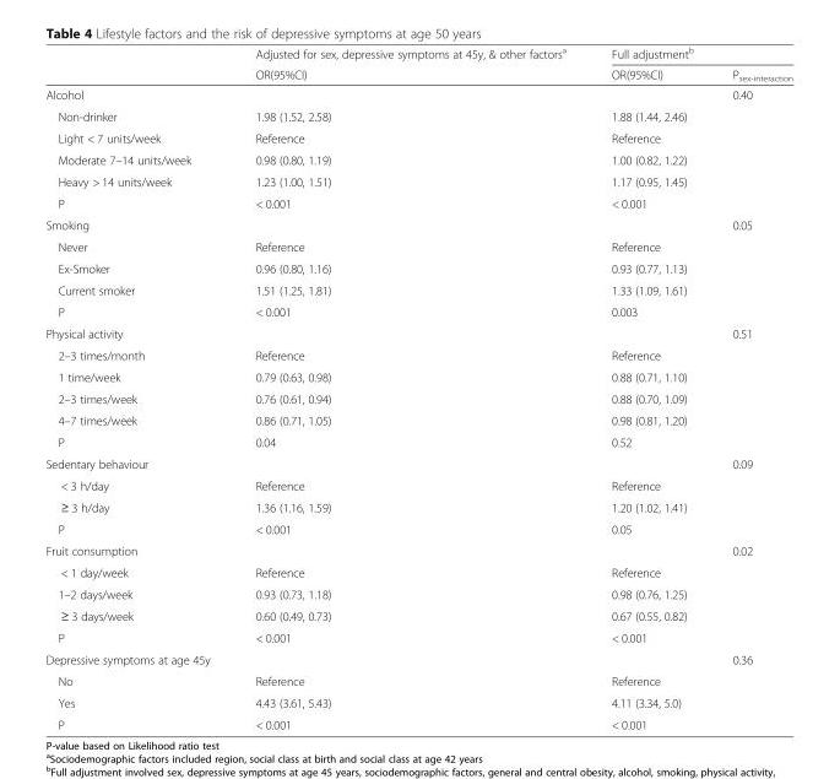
<table><thead><tr><td rowspan="2"></td><td rowspan="2">Adjusted for sex, depressive symptoms at 45y, &amp; other factors<sup>a</sup> OR(95%CI)</td><td colspan="2">Full adjustment<sup>b</sup></td></tr><tr><td>OR(95%CI)</td><td>P<sub>sex-interaction</sub></td></tr></thead><tbody><tr><td>Alcohol</td><td></td><td></td><td>0.40</td></tr><tr><td>Non-drinker</td><td>1.98 (1.52, 2.58)</td><td>1.88 (1.44, 2.46)</td><td rowspan="5"></td></tr><tr><td>Light &lt; 7 units/week</td><td>Reference</td><td>Reference</td></tr><tr><td>Moderate 7–14 units/week</td><td>0.98 (0.80, 1.19)</td><td>1.00 (0.82, 1.22)</td></tr><tr><td>Heavy &gt; 14 units/week</td><td>1.23 (1.00, 1.51)</td><td>1.17 (0.95, 1.45)</td></tr><tr><td>P</td><td>&lt; 0.001</td><td>&lt; 0.001</td></tr><tr><td>Smoking</td><td></td><td></td><td>0.05</td></tr><tr><td>Never</td><td>Reference</td><td>Reference</td><td></td></tr><tr><td>Ex-Smoker</td><td>0.96 (0.80, 1.16)</td><td>0.93 (0.77, 1.13)</td><td></td></tr><tr><td>Current smoker</td><td>1.51 (1.25, 1.81)</td><td>1.33 (1.09, 1.61)</td><td></td></tr><tr><td>P</td><td>&lt; 0.001</td><td>0.003</td><td></td></tr><tr><td>Physical activity</td><td></td><td></td><td>0.51</td></tr><tr><td>2–3 times/month</td><td>Reference</td><td>Reference</td><td></td></tr><tr><td>1 time/week</td><td>0.79 (0.63, 0.98)</td><td>0.88 (0.71, 1.10)</td><td></td></tr><tr><td>2–3 times/week</td><td>0.76 (0.61, 0.94)</td><td>0.88 (0.70, 1.09)</td><td></td></tr><tr><td>4–7 times/week</td><td>0.86 (0.71, 1.05)</td><td>0.98 (0.81, 1.20)</td><td></td></tr><tr><td>P</td><td>0.04</td><td>0.52</td><td></td></tr><tr><td>Sedentary behaviour</td><td></td><td></td><td>0.09</td></tr><tr><td>&lt; 3 h/day</td><td>Reference</td><td>Reference</td><td></td></tr><tr><td>≥ 3 h/day</td><td>1.36 (1.16, 1.59)</td><td>1.20 (1.02, 1.41)</td><td></td></tr><tr><td>P</td><td>&lt; 0.001</td><td>0.05</td><td></td></tr><tr><td>Fruit consumption</td><td></td><td></td><td>0.02</td></tr><tr><td>&lt; 1 day/week</td><td>Reference</td><td>Reference</td><td></td></tr><tr><td>1–2 days/week</td><td>0.93 (0.73, 1.18)</td><td>0.98 (0.76, 1.25)</td><td></td></tr><tr><td>≥ 3 days/week</td><td>0.60 (0.49, 0.73)</td><td>0.67 (0.55, 0.82)</td><td></td></tr><tr><td>P</td><td>&lt; 0.001</td><td>&lt; 0.001</td><td></td></tr><tr><td>Depressive symptoms at age 45y</td><td></td><td></td><td>0.36</td></tr><tr><td>No</td><td>Reference</td><td>Reference</td><td></td></tr><tr><td>Yes</td><td>4.43 (3.61, 5.43)</td><td>4.11 (3.34, 5.0)</td><td></td></tr><tr><td>P</td><td>&lt; 0.001</td><td>&lt; 0.001</td><td></td></tr></tbody></table>